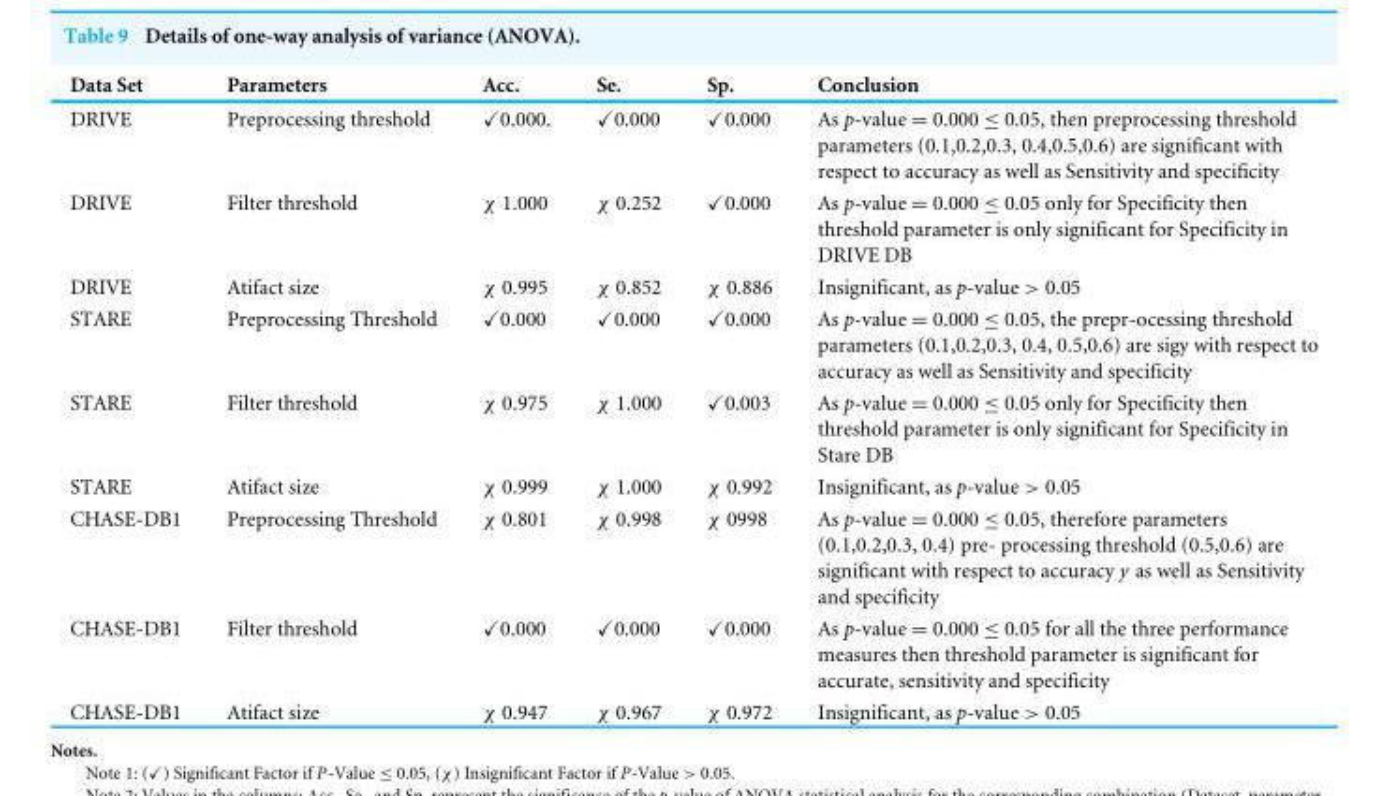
<table><thead><tr><td>Data Set</td><td>Parameters</td><td>Acc.</td><td>Se.</td><td>Sp.</td><td>Conclusion</td></tr></thead><tbody><tr><td>DRIVE</td><td>Preprocessing threshold</td><td>✓0.000.</td><td>✓0.000</td><td>✓0.000</td><td>As p-value = 0.000 ≤ 0.05, then preprocessing threshold parameters (0.1,0.2,0.3, 0.4,0.5,0.6) are significant with respect to accuracy as well as Sensitivity and specificity</td></tr><tr><td>DRIVE</td><td>Filter threshold</td><td>χ 1.000</td><td>χ 0.252</td><td>✓0.000</td><td>As p-value = 0.000 ≤ 0.05 only for Specificity then threshold parameter is only significant for Specificity in DRIVE DB</td></tr><tr><td>DRIVE</td><td>Atifact size</td><td>χ 0.995</td><td>χ 0.852</td><td>χ 0.886</td><td>Insignificant, as p-value &gt; 0.05</td></tr><tr><td>STARE</td><td>Preprocessing Threshold</td><td>✓0.000</td><td>✓0.000</td><td>✓0.000</td><td>As p-value = 0.000 ≤ 0.05, the prepr-ocessing threshold parameters (0.1,0.2,0.3, 0.4, 0.5,0.6) are sigy with respect to accuracy as well as Sensitivity and specificity</td></tr><tr><td>STARE</td><td>Filter threshold</td><td>χ 0.975</td><td>χ 1.000</td><td>✓0.003</td><td>As p-value = 0.000 ≤ 0.05 only for Specificity then threshold parameter is only significant for Specificity in Stare DB</td></tr><tr><td>STARE</td><td>Atifact size</td><td>χ 0.999</td><td>χ 1.000</td><td>χ 0.992</td><td>Insignificant, as p-value &gt; 0.05</td></tr><tr><td>CHASE-DB1</td><td>Preprocessing Threshold</td><td>χ 0.801</td><td>χ 0.998</td><td>χ 0998</td><td>As p-value = 0.000 ≤ 0.05, therefore parameters (0.1,0.2,0.3, 0.4) pre- processing threshold (0.5,0.6) are significant with respect to accuracy y as well as Sensitivity and specificity</td></tr><tr><td>CHASE-DB1</td><td>Filter threshold</td><td>✓0.000</td><td>✓0.000</td><td>✓0.000</td><td>As p-value = 0.000 ≤ 0.05 for all the three performance measures then threshold parameter is significant for accurate, sensitivity and specificity</td></tr><tr><td>CHASE-DB1</td><td>Atifact size</td><td>χ 0.947</td><td>χ 0.967</td><td>χ 0.972</td><td>Insignificant, as p-value &gt; 0.05</td></tr></tbody></table>